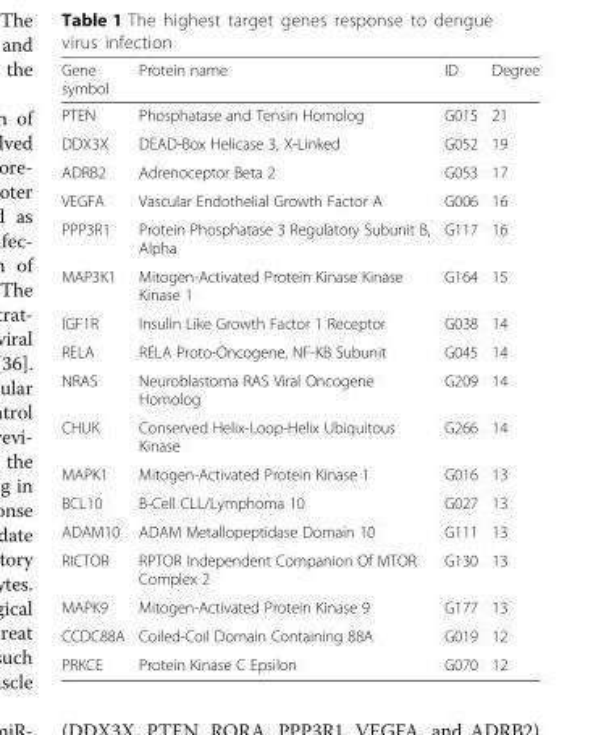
<table><thead><tr><td>Gene symbol</td><td>Protein name</td><td>ID</td><td>Degree</td></tr></thead><tbody><tr><td>PTEN</td><td>Phosphatase and Tensin Homolog</td><td>G015</td><td>21</td></tr><tr><td>DDX3X</td><td>DEAD-Box Helicase 3, X-Linked</td><td>G052</td><td>19</td></tr><tr><td>ADRB2</td><td>Adrenoceptor Beta 2</td><td>G053</td><td>17</td></tr><tr><td>VEGFA</td><td>Vascular Endothelial Growth Factor A</td><td>G006</td><td>16</td></tr><tr><td>PPP3R1</td><td>Protein Phosphatase 3 Regulatory Subunit B, Alpha</td><td>G117</td><td>16</td></tr><tr><td>MAP3K1</td><td>Mitogen-Activated Protein Kinase Kinase Kinase 1</td><td>G164</td><td>15</td></tr><tr><td>IGF1R</td><td>Insulin Like Growth Factor 1 Receptor</td><td>G038</td><td>14</td></tr><tr><td>RELA</td><td>RELA Proto-Oncogene, NF-KB Subunit</td><td>G045</td><td>14</td></tr><tr><td>NRAS</td><td>Neuroblastoma RAS Viral Oncogene Homolog</td><td>G209</td><td>14</td></tr><tr><td>CHUK</td><td>Conserved Helix-Loop-Helix Ubiquitous Kinase</td><td>G266</td><td>14</td></tr><tr><td>MAPK1</td><td>Mitogen-Activated Protein Kinase 1</td><td>G016</td><td>13</td></tr><tr><td>BCL10</td><td>B-Cell CLL/Lymphoma 10</td><td>G027</td><td>13</td></tr><tr><td>ADAM10</td><td>ADAM Metallopeptidase Domain 10</td><td>G111</td><td>13</td></tr><tr><td>RICTOR</td><td>RPTOR Independent Companion Of MTOR Complex 2</td><td>G130</td><td>13</td></tr><tr><td>MAPK9</td><td>Mitogen-Activated Protein Kinase 9</td><td>G177</td><td>13</td></tr><tr><td>CCDC88A</td><td>Coiled-Coil Domain Containing 88A</td><td>G019</td><td>12</td></tr><tr><td>PRKCE</td><td>Protein Kinase C Epsilon</td><td>G070</td><td>12</td></tr></tbody></table>